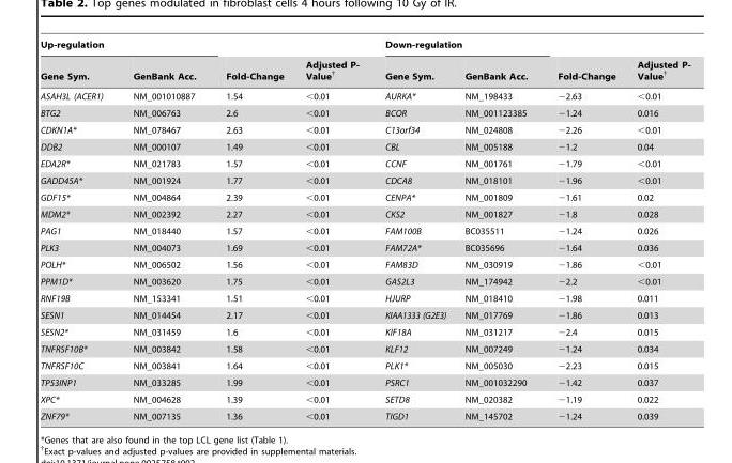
<table><thead><tr><td colspan="2">Up-regulation</td><td rowspan="2">Fold-Change</td><td rowspan="2">Adjusted P- Value†</td><td colspan="2">Down-regulation</td><td rowspan="2">Fold-Change</td><td rowspan="2">Adjusted P- Value†</td></tr><tr><td>Gene Sym.</td><td>GenBank Acc.</td><td>Gene Sym.</td><td>GenBank Acc.</td></tr></thead><tbody><tr><td>ASAH3L (ACER1)</td><td>NM_001010887</td><td>1.54</td><td>&lt;0.01</td><td>AURKA*</td><td>NM_198433</td><td>−2.63</td><td>&lt;0.01</td></tr><tr><td>BTG2</td><td>NM_006763</td><td>2.6</td><td>&lt;0.01</td><td>BCOR</td><td>NM_001123385</td><td>−1.24</td><td>0.016</td></tr><tr><td>CDKN1A*</td><td>NM_078467</td><td>2.63</td><td>&lt;0.01</td><td>C13orf34</td><td>NM_024808</td><td>−2.26</td><td>&lt;0.01</td></tr><tr><td>DDB2</td><td>NM_000107</td><td>1.49</td><td>&lt;0.01</td><td>CBL</td><td>NM_005188</td><td>−1.2</td><td>0.04</td></tr><tr><td>EDA2R*</td><td>NM_021783</td><td>1.57</td><td>&lt;0.01</td><td>CCNF</td><td>NM_001761</td><td>−1.79</td><td>&lt;0.01</td></tr><tr><td>GADD45A*</td><td>NM_001924</td><td>1.77</td><td>&lt;0.01</td><td>CDCA8</td><td>NM_018101</td><td>−1.96</td><td>&lt;0.01</td></tr><tr><td>GDF15*</td><td>NM_004864</td><td>2.39</td><td>&lt;0.01</td><td>CENPA*</td><td>NM_001809</td><td>−1.61</td><td>0.02</td></tr><tr><td>MDM2*</td><td>NM_002392</td><td>2.27</td><td>&lt;0.01</td><td>CKS2</td><td>NM_001827</td><td>−1.8</td><td>0.028</td></tr><tr><td>PAG1</td><td>NM_018440</td><td>1.57</td><td>&lt;0.01</td><td>FAM100B</td><td>BC035511</td><td>−1.24</td><td>0.026</td></tr><tr><td>PLK3</td><td>NM_004073</td><td>1.69</td><td>&lt;0.01</td><td>FAM72A*</td><td>BC035696</td><td>−1.64</td><td>0.036</td></tr><tr><td>POLH*</td><td>NM_006502</td><td>1.56</td><td>&lt;0.01</td><td>FAM83D</td><td>NM_030919</td><td>−1.86</td><td>&lt;0.01</td></tr><tr><td>PPM1D*</td><td>NM_003620</td><td>1.75</td><td>&lt;0.01</td><td>GAS2L3</td><td>NM_174942</td><td>−2.2</td><td>&lt;0.01</td></tr><tr><td>RNF19B</td><td>NM_153341</td><td>1.51</td><td>&lt;0.01</td><td>HJURP</td><td>NM_018410</td><td>−1.98</td><td>0.011</td></tr><tr><td>SESN1</td><td>NM_014454</td><td>2.17</td><td>&lt;0.01</td><td>KIAA1333 (G2E3)</td><td>NM_017769</td><td>−1.86</td><td>0.013</td></tr><tr><td>SESN2*</td><td>NM_031459</td><td>1.6</td><td>&lt;0.01</td><td>KIF18A</td><td>NM_031217</td><td>−2.4</td><td>0.015</td></tr><tr><td>TNFRSF10B*</td><td>NM_003842</td><td>1.58</td><td>&lt;0.01</td><td>KLF12</td><td>NM_007249</td><td>−1.24</td><td>0.034</td></tr><tr><td>TNFRSF10C</td><td>NM_003841</td><td>1.64</td><td>&lt;0.01</td><td>PLK1*</td><td>NM_005030</td><td>−2.23</td><td>0.015</td></tr><tr><td>TP53INP1</td><td>NM_033285</td><td>1.99</td><td>&lt;0.01</td><td>PSRC1</td><td>NM_001032290</td><td>−1.42</td><td>0.037</td></tr><tr><td>XPC*</td><td>NM_004628</td><td>1.39</td><td>&lt;0.01</td><td>SETD8</td><td>NM_020382</td><td>−1.19</td><td>0.022</td></tr><tr><td>ZNF79*</td><td>NM_007135</td><td>1.36</td><td>&lt;0.01</td><td>TIGD1</td><td>NM_145702</td><td>−1.24</td><td>0.039</td></tr></tbody></table>